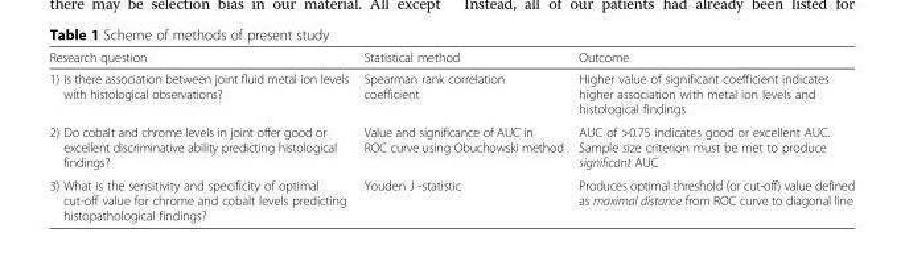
<table><thead><tr><td>Research question</td><td>Statistical method</td><td>Outcome</td></tr></thead><tbody><tr><td>1) Is there association between joint fluid metal ion levels with histological observations?</td><td>Spearman rank correlation coefficient</td><td>Higher value of significant coefficient indicates higher association with metal ion levels and histological findings</td></tr><tr><td>2) Do cobalt and chrome levels in joint offer good or excellent discriminative ability predicting histological findings?</td><td>Value and significance of AUC in ROC curve using Obuchowski method</td><td>AUC of &gt;0.75 indicates good or excellent AUC. Sample size criterion must be met to produce significant AUC</td></tr><tr><td>3) What is the sensitivity and specificity of optimal cut-off value for chrome and cobalt levels predicting histopathological findings?</td><td>Youden J -statistic</td><td>Produces optimal threshold (or cut-off) value defined as maximal distance from ROC curve to diagonal line</td></tr></tbody></table>